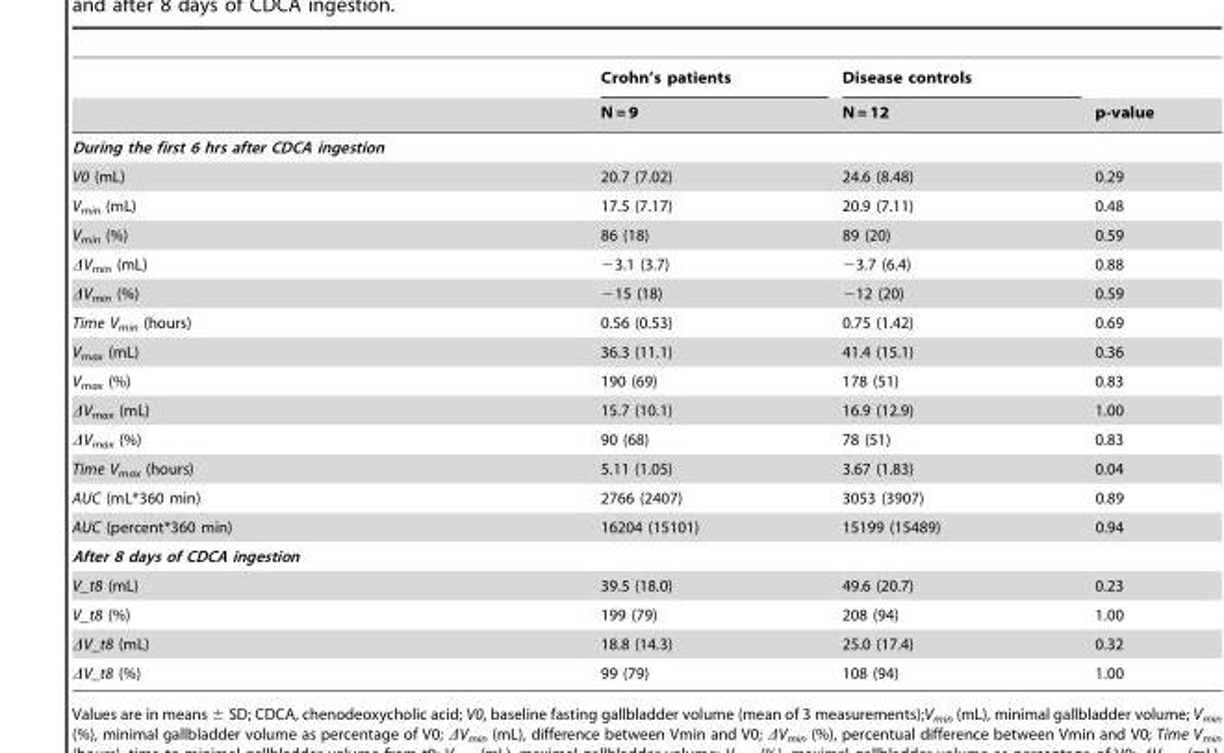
<table><thead><tr><td rowspan="2"></td><td rowspan="2">Crohn’s patients N = 9</td><td rowspan="2">Disease controls N = 12</td><td rowspan="2">p-value</td></tr><tr></tr></thead><tbody><tr><td colspan="4">During the first 6 hrs after CDCA ingestion</td></tr><tr><td>V0 (mL)</td><td>20.7 (7.02)</td><td>24.6 (8.48)</td><td>0.29</td></tr><tr><td>V<sub>min</sub> (mL)</td><td>17.5 (7.17)</td><td>20.9 (7.11)</td><td>0.48</td></tr><tr><td>V<sub>min</sub> (%)</td><td>86 (18)</td><td>89 (20)</td><td>0.59</td></tr><tr><td>ΔV<sub>min</sub> (mL)</td><td>−3.1 (3.7)</td><td>−3.7 (6.4)</td><td>0.88</td></tr><tr><td>ΔV<sub>min</sub> (%)</td><td>−15 (18)</td><td>−12 (20)</td><td>0.59</td></tr><tr><td>Time V<sub>min</sub> (hours)</td><td>0.56 (0.53)</td><td>0.75 (1.42)</td><td>0.69</td></tr><tr><td>V<sub>max</sub> (mL)</td><td>36.3 (11.1)</td><td>41.4 (15.1)</td><td>0.36</td></tr><tr><td>V<sub>max</sub> (%)</td><td>190 (69)</td><td>178 (51)</td><td>0.83</td></tr><tr><td>ΔV<sub>max</sub> (mL)</td><td>15.7 (10.1)</td><td>16.9 (12.9)</td><td>1.00</td></tr><tr><td>ΔV<sub>max</sub> (%)</td><td>90 (68)</td><td>78 (51)</td><td>0.83</td></tr><tr><td>Time V<sub>max</sub> (hours)</td><td>5.11 (1.05)</td><td>3.67 (1.83)</td><td>0.04</td></tr><tr><td>AUC (mL*360 min)</td><td>2766 (2407)</td><td>3053 (3907)</td><td>0.89</td></tr><tr><td>AUC (percent*360 min)</td><td>16204 (15101)</td><td>15199 (15489)</td><td>0.94</td></tr><tr><td colspan="4">After 8 days of CDCA ingestion</td></tr><tr><td>V_t8 (mL)</td><td>39.5 (18.0)</td><td>49.6 (20.7)</td><td>0.23</td></tr><tr><td>V_t8 (%)</td><td>199 (79)</td><td>208 (94)</td><td>1.00</td></tr><tr><td>ΔV_t8 (mL)</td><td>18.8 (14.3)</td><td>25.0 (17.4)</td><td>0.32</td></tr><tr><td>ΔV_t8 (%)</td><td>99 (79)</td><td>108 (94)</td><td>1.00</td></tr></tbody></table>